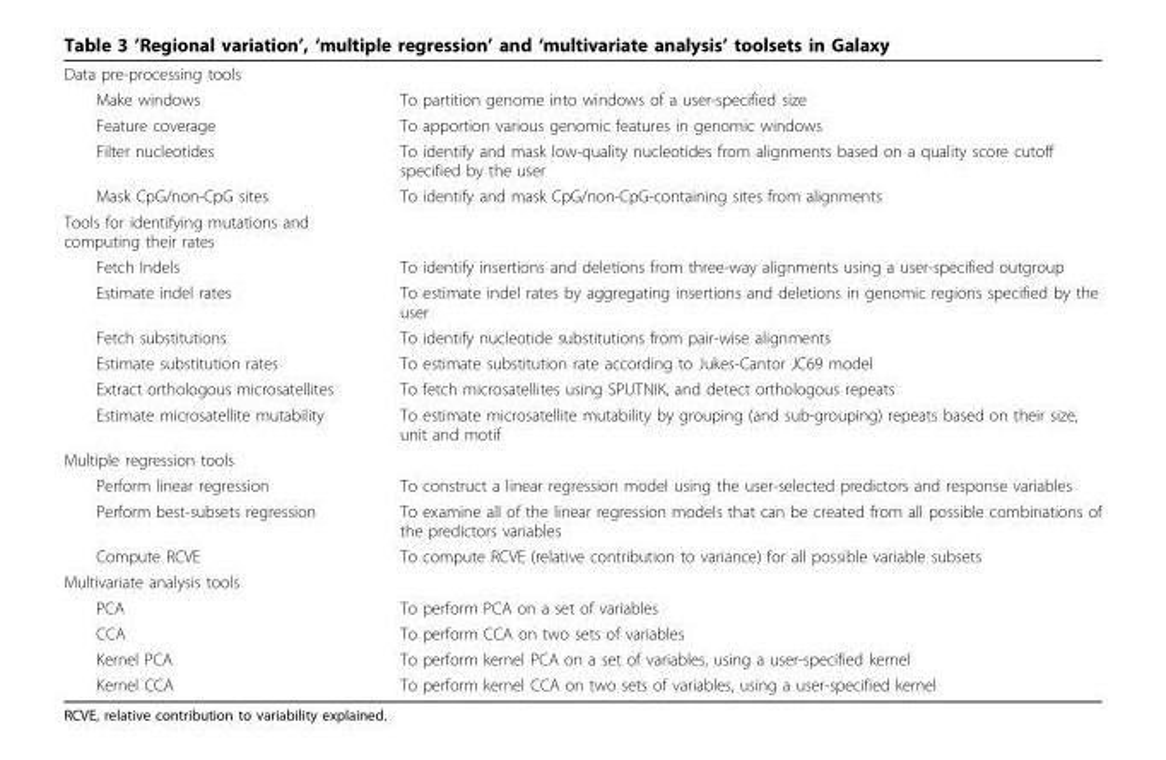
<table><tbody><tr><td colspan="2">Data pre-processing tools</td></tr><tr><td>Make windows</td><td>To partition genome into windows of a user-specified size</td></tr><tr><td>Feature coverage</td><td>To apportion various genomic features in genomic windows</td></tr><tr><td>Filter nucleotides</td><td>To identify and mask low-quality nucleotides from alignments based on a quality score cutoff specified by the user</td></tr><tr><td>Mask CpG/non-CpG sites</td><td>To identify and mask CpG/non-CpG-containing sites from alignments</td></tr><tr><td colspan="2">Tools for identifying mutations and computing their rates</td></tr><tr><td>Fetch Indels</td><td>To identify insertions and deletions from three-way alignments using a user-specified outgroup</td></tr><tr><td>Estimate indel rates</td><td>To estimate indel rates by aggregating insertions and deletions in genomic regions specified by the user</td></tr><tr><td>Fetch substitutions</td><td>To identify nucleotide substitutions from pair-wise alignments</td></tr><tr><td>Estimate substitution rates</td><td>To estimate substitution rate according to Jukes-Cantor JC69 model</td></tr><tr><td>Extract orthologous microsatellites</td><td>To fetch microsatellites using SPUTNIK, and detect orthologous repeats</td></tr><tr><td>Estimate microsatellite mutability</td><td>To estimate microsatellite mutability by grouping (and sub-grouping) repeats based on their size, unit and motif</td></tr><tr><td colspan="2">Multiple regression tools</td></tr><tr><td>Perform linear regression</td><td>To construct a linear regression model using the user-selected predictors and response variables</td></tr><tr><td>Perform best-subsets regression</td><td>To examine all of the linear regression models that can be created from all possible combinations of the predictors variables</td></tr><tr><td>Compute RCVE</td><td>To compute RCVE (relative contribution to variance) for all possible variable subsets</td></tr><tr><td colspan="2">Multivariate analysis tools</td></tr><tr><td>PCA</td><td>To perform PCA on a set of variables</td></tr><tr><td>CCA</td><td>To perform CCA on two sets of variables</td></tr><tr><td>Kernel PCA</td><td>To perform kernel PCA on a set of variables, using a user-specified kernel</td></tr><tr><td>Kernel CCA</td><td>To perform kernel CCA on two sets of variables, using a user-specified kernel</td></tr></tbody></table>